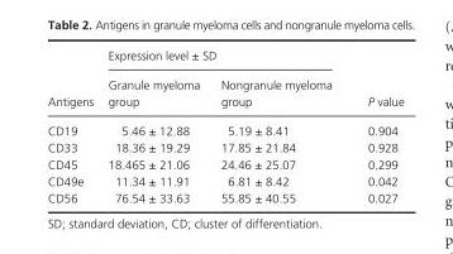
<table><thead><tr><td rowspan="2">Antigens</td><td colspan="2">Expression level ± SD</td><td rowspan="2">P value</td></tr><tr><td>Granule myeloma group</td><td>Nongranule myeloma group</td></tr></thead><tbody><tr><td>CD19</td><td>5.46 ± 12.88</td><td>5.19 ± 8.41</td><td>0.904</td></tr><tr><td>CD33</td><td>18.36 ± 19.29</td><td>17.85 ± 21.84</td><td>0.928</td></tr><tr><td>CD45</td><td>18.465 ± 21.06</td><td>24.46 ± 25.07</td><td>0.299</td></tr><tr><td>CD49e</td><td>11.34 ± 11.91</td><td>6.81 ± 8.42</td><td>0.042</td></tr><tr><td>CD56</td><td>76.54 ± 33.63</td><td>55.85 ± 40.55</td><td>0.027</td></tr></tbody></table>